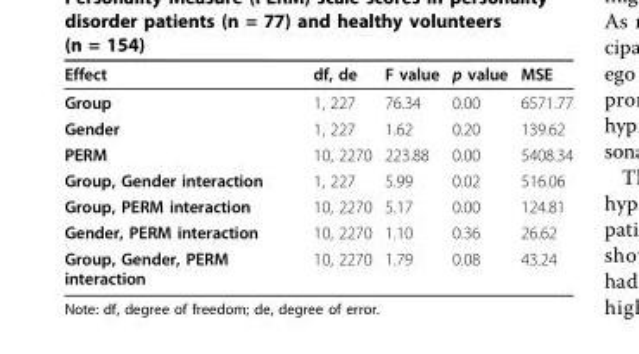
<table><thead><tr><td>Effect</td><td>df, de</td><td>F value</td><td>p value</td><td>MSE</td></tr></thead><tbody><tr><td>Group</td><td>1, 227</td><td>76.34</td><td>0.00</td><td>6571.77</td></tr><tr><td>Gender</td><td>1, 227</td><td>1.62</td><td>0.20</td><td>139.62</td></tr><tr><td>PERM</td><td>10, 2270</td><td>223.88</td><td>0.00</td><td>5408.34</td></tr><tr><td>Group, Gender interaction</td><td>1, 227</td><td>5.99</td><td>0.02</td><td>516.06</td></tr><tr><td>Group, PERM interaction</td><td>10, 2270</td><td>5.17</td><td>0.00</td><td>124.81</td></tr><tr><td>Gender, PERM interaction</td><td>10, 2270</td><td>1.10</td><td>0.36</td><td>26.62</td></tr><tr><td>Group, Gender, PERM interaction</td><td>10, 2270</td><td>1.79</td><td>0.08</td><td>43.24</td></tr></tbody></table>